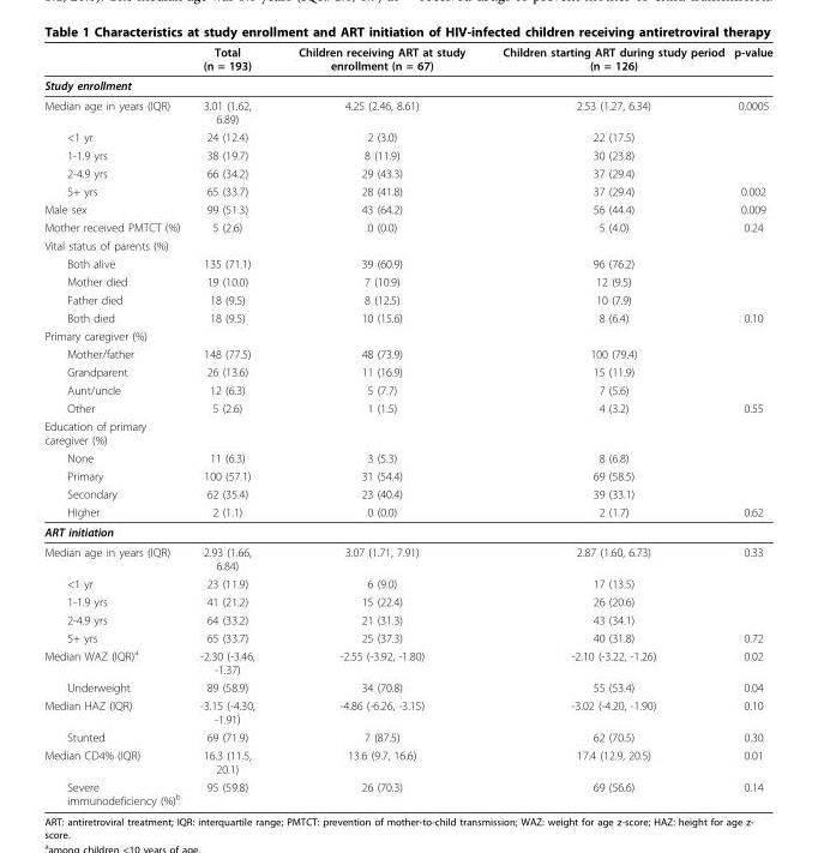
<table><thead><tr><td></td><td>Total (n = 193)</td><td>Children receiving ART at study enrollment (n = 67)</td><td>Children starting ART during study period (n = 126)</td><td>p-value</td></tr></thead><tbody><tr><td colspan="5">Study enrollment</td></tr><tr><td>Median age in years (IQR)</td><td>3.01 (1.62, 6.89)</td><td>4.25 (2.46, 8.61)</td><td>2.53 (1.27, 6.34)</td><td>0.0005</td></tr><tr><td>&lt;1 yr</td><td>24 (12.4)</td><td>2 (3.0)</td><td>22 (17.5)</td><td></td></tr><tr><td>1-1.9 yrs</td><td>38 (19.7)</td><td>8 (11.9)</td><td>30 (23.8)</td><td></td></tr><tr><td>2-4.9 yrs</td><td>66 (34.2)</td><td>29 (43.3)</td><td>37 (29.4)</td><td></td></tr><tr><td>5+ yrs</td><td>65 (33.7)</td><td>28 (41.8)</td><td>37 (29.4)</td><td>0.002</td></tr><tr><td>Male sex</td><td>99 (51.3)</td><td>43 (64.2)</td><td>56 (44.4)</td><td>0.009</td></tr><tr><td>Mother received PMTCT (%)</td><td>5 (2.6)</td><td>0 (0.0)</td><td>5 (4.0)</td><td>0.24</td></tr><tr><td colspan="5">Vital status of parents (%)</td></tr><tr><td>Both alive</td><td>135 (71.1)</td><td>39 (60.9)</td><td>96 (76.2)</td><td></td></tr><tr><td>Mother died</td><td>19 (10.0)</td><td>7 (10.9)</td><td>12 (9.5)</td><td></td></tr><tr><td>Father died</td><td>18 (9.5)</td><td>8 (12.5)</td><td>10 (7.9)</td><td></td></tr><tr><td>Both died</td><td>18 (9.5)</td><td>10 (15.6)</td><td>8 (6.4)</td><td>0.10</td></tr><tr><td colspan="5">Primary caregiver (%)</td></tr><tr><td>Mother/father</td><td>148 (77.5)</td><td>48 (73.9)</td><td>100 (79.4)</td><td></td></tr><tr><td>Grandparent</td><td>26 (13.6)</td><td>11 (16.9)</td><td>15 (11.9)</td><td></td></tr><tr><td>Aunt/uncle</td><td>12 (6.3)</td><td>5 (7.7)</td><td>7 (5.6)</td><td></td></tr><tr><td>Other</td><td>5 (2.6)</td><td>1 (1.5)</td><td>4 (3.2)</td><td>0.55</td></tr><tr><td colspan="5">Education of primary caregiver (%)</td></tr><tr><td>None</td><td>11 (6.3)</td><td>3 (5.3)</td><td>8 (6.8)</td><td></td></tr><tr><td>Primary</td><td>100 (57.1)</td><td>31 (54.4)</td><td>69 (58.5)</td><td></td></tr><tr><td>Secondary</td><td>62 (35.4)</td><td>23 (40.4)</td><td>39 (33.1)</td><td></td></tr><tr><td>Higher</td><td>2 (1.1)</td><td>0 (0.0)</td><td>2 (1.7)</td><td>0.62</td></tr><tr><td colspan="5">ART initiation</td></tr><tr><td>Median age in years (IQR)</td><td>2.93 (1.66, 6.84)</td><td>3.07 (1.71, 7.91)</td><td>2.87 (1.60, 6.73)</td><td>0.33</td></tr><tr><td>&lt;1 yr</td><td>23 (11.9)</td><td>6 (9.0)</td><td>17 (13.5)</td><td></td></tr><tr><td>1-1.9 yrs</td><td>41 (21.2)</td><td>15 (22.4)</td><td>26 (20.6)</td><td></td></tr><tr><td>2-4.9 yrs</td><td>64 (33.2)</td><td>21 (31.3)</td><td>43 (34.1)</td><td></td></tr><tr><td>5+ yrs</td><td>65 (33.7)</td><td>25 (37.3)</td><td>40 (31.8)</td><td>0.72</td></tr><tr><td>Median WAZ (IQR)<sup>a</sup></td><td>-2.30 (-3.46, -1.37)</td><td>-2.55 (-3.92, -1.80)</td><td>-2.10 (-3.22, -1.26)</td><td>0.02</td></tr><tr><td>Underweight</td><td>89 (58.9)</td><td>34 (70.8)</td><td>55 (53.4)</td><td>0.04</td></tr><tr><td>Median HAZ (IQR)</td><td>-3.15 (-4.30, -1.91)</td><td>-4.86 (-6.26, -3.15)</td><td>-3.02 (-4.20, -1.90)</td><td>0.10</td></tr><tr><td>Stunted</td><td>69 (71.9)</td><td>7 (87.5)</td><td>62 (70.5)</td><td>0.30</td></tr><tr><td>Median CD4% (IQR)</td><td>16.3 (11.5, 20.1)</td><td>13.6 (9.7, 16.6)</td><td>17.4 (12.9, 20.5)</td><td>0.01</td></tr><tr><td>Severe immunodeficiency (%)<sup>b</sup></td><td>95 (59.8)</td><td>26 (70.3)</td><td>69 (56.6)</td><td>0.14</td></tr></tbody></table>